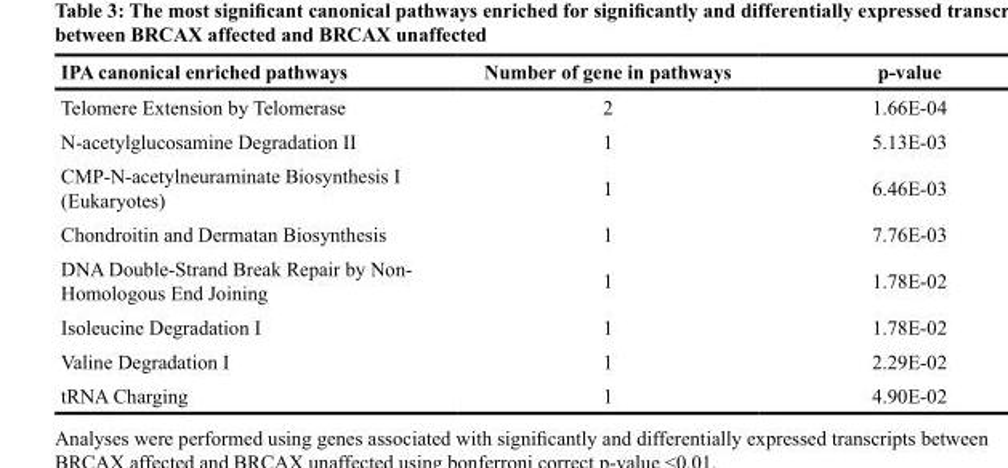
<table><thead><tr><td>IPA canonical enriched pathways</td><td>Number of gene in pathways</td><td>p-value</td></tr></thead><tbody><tr><td>Telomere Extension by Telomerase</td><td>2</td><td>1.66E-04</td></tr><tr><td>N-acetylglucosamine Degradation II</td><td>1</td><td>5.13E-03</td></tr><tr><td>CMP-N-acetylneuraminate Biosynthesis I (Eukaryotes)</td><td>1</td><td>6.46E-03</td></tr><tr><td>Chondroitin and Dermatan Biosynthesis</td><td>1</td><td>7.76E-03</td></tr><tr><td>DNA Double-Strand Break Repair by Non- Homologous End Joining</td><td>1</td><td>1.78E-02</td></tr><tr><td>Isoleucine Degradation I</td><td>1</td><td>1.78E-02</td></tr><tr><td>Valine Degradation I</td><td>1</td><td>2.29E-02</td></tr><tr><td>tRNA Charging</td><td>1</td><td>4.90E-02</td></tr></tbody></table>